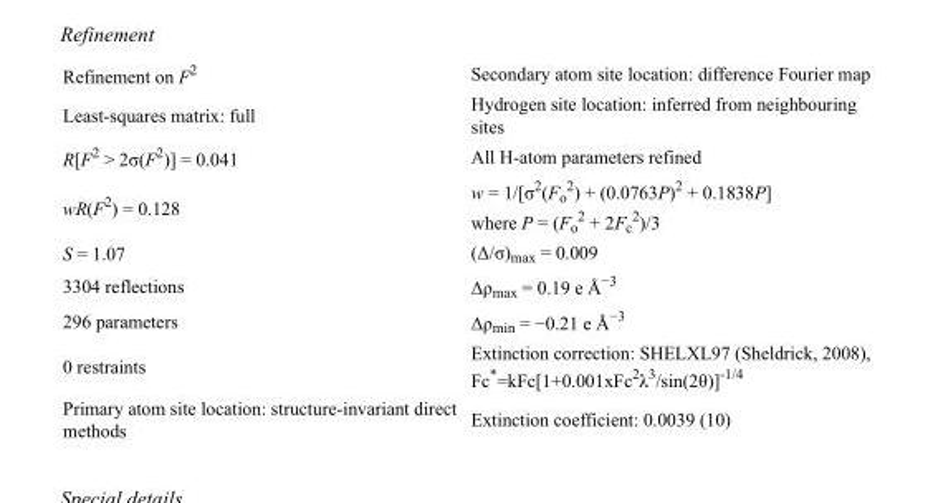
<table><tbody><tr><td>Refinement on F<sup>2</sup></td><td>Secondary atom site location: difference Fourier map</td></tr><tr><td>Least-squares matrix: full</td><td>Hydrogen site location: inferred from neighbouring sites</td></tr><tr><td>R[F<sup>2</sup> &gt; 2σ(F<sup>2</sup>)] = 0.041</td><td>All H-atom parameters refined</td></tr><tr><td>wR(F<sup>2</sup>) = 0.128</td><td>w = 1/[σ<sup>2</sup>(F<sub>o</sub> <sup>2</sup>) + (0.0763P)<sup>2</sup> + 0.1838P] where P = (F<sub>o</sub> <sup>2</sup> + 2F<sub>c</sub> <sup>2</sup>)/3</td></tr><tr><td>S = 1.07</td><td>(Δ/σ)<sub>max</sub> = 0.009</td></tr><tr><td>3304 reflections</td><td>Δρ<sub>max</sub> = 0.19 e Å<sup>−3</sup></td></tr><tr><td>296 parameters</td><td>Δρ<sub>min</sub> = −0.21 e Å<sup>−3</sup></td></tr><tr><td>0 restraints</td><td>Extinction correction: SHELXL97 (Sheldrick, 2008), Fc*=kFc[1+0.001xFc<sup>2</sup>λ<sup>3</sup>/sin(2θ)]<sup>-1/4</sup></td></tr><tr><td>Primary atom site location: structure-invariant direct methods</td><td>Extinction coefficient: 0.0039 (10)</td></tr></tbody></table>